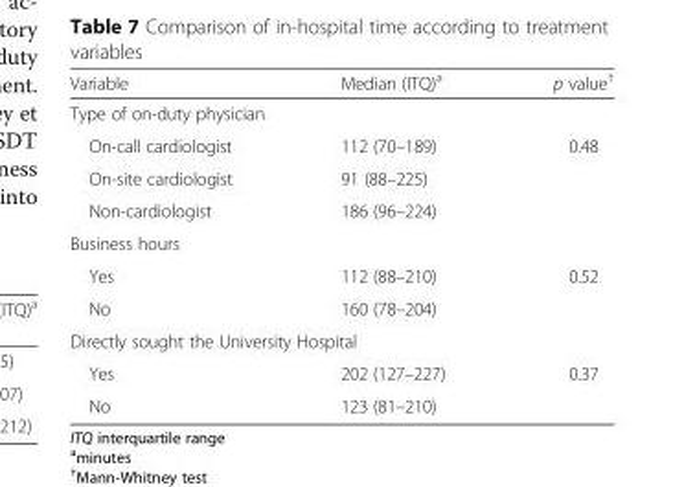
<table><thead><tr><td>Variable</td><td>Median (ITQ)<sup>a</sup></td><td>p value<sup>†</sup></td></tr></thead><tbody><tr><td colspan="3">Type of on-duty physician</td></tr><tr><td>On-call cardiologist</td><td>112 (70–189)</td><td>0.48</td></tr><tr><td>On-site cardiologist</td><td>91 (88–225)</td><td></td></tr><tr><td>Non-cardiologist</td><td>186 (96–224)</td><td></td></tr><tr><td colspan="3">Business hours</td></tr><tr><td>Yes</td><td>112 (88–210)</td><td>0.52</td></tr><tr><td>No</td><td>160 (78–204)</td><td></td></tr><tr><td colspan="3">Directly sought the University Hospital</td></tr><tr><td>Yes</td><td>202 (127–227)</td><td>0.37</td></tr><tr><td>No</td><td>123 (81–210)</td><td></td></tr></tbody></table>